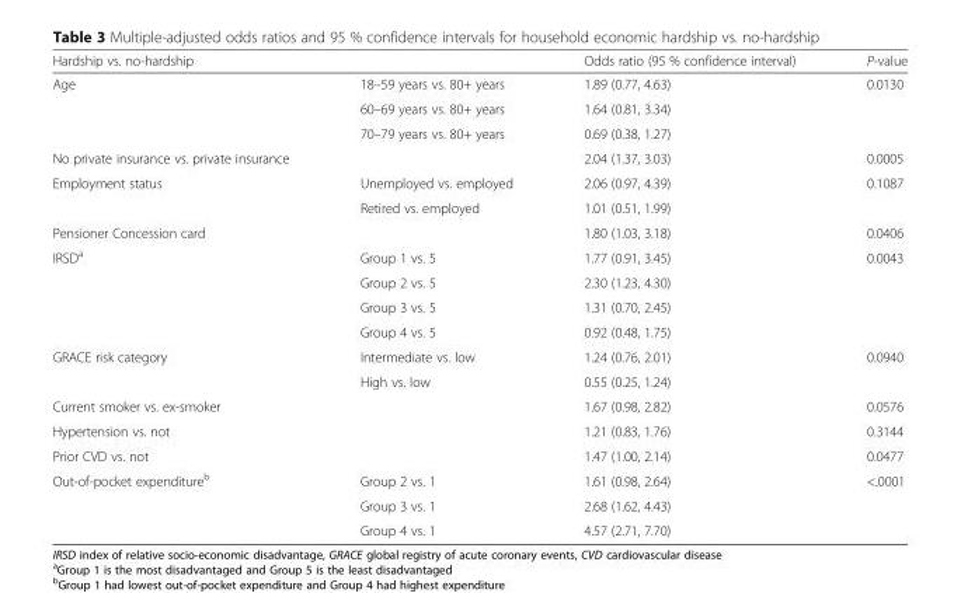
<table><thead><tr><td>Hardship vs. no-hardship</td><td></td><td>Odds ratio (95 % confidence interval)</td><td>P-value</td></tr></thead><tbody><tr><td rowspan="3">Age</td><td>18–59 years vs. 80+ years</td><td>1.89 (0.77, 4.63)</td><td>0.0130</td></tr><tr><td>60–69 years vs. 80+ years</td><td>1.64 (0.81, 3.34)</td><td></td></tr><tr><td>70–79 years vs. 80+ years</td><td>0.69 (0.38, 1.27)</td><td></td></tr><tr><td>No private insurance vs. private insurance</td><td></td><td>2.04 (1.37, 3.03)</td><td>0.0005</td></tr><tr><td rowspan="2">Employment status</td><td>Unemployed vs. employed</td><td>2.06 (0.97, 4.39)</td><td>0.1087</td></tr><tr><td>Retired vs. employed</td><td>1.01 (0.51, 1.99)</td><td></td></tr><tr><td>Pensioner Concession card</td><td></td><td>1.80 (1.03, 3.18)</td><td>0.0406</td></tr><tr><td rowspan="4">IRSD<sup>a</sup></td><td>Group 1 vs. 5</td><td>1.77 (0.91, 3.45)</td><td>0.0043</td></tr><tr><td>Group 2 vs. 5</td><td>2.30 (1.23, 4.30)</td><td></td></tr><tr><td>Group 3 vs. 5</td><td>1.31 (0.70, 2.45)</td><td></td></tr><tr><td>Group 4 vs. 5</td><td>0.92 (0.48, 1.75)</td><td></td></tr><tr><td rowspan="2">GRACE risk category</td><td>Intermediate vs. low</td><td>1.24 (0.76, 2.01)</td><td>0.0940</td></tr><tr><td>High vs. low</td><td>0.55 (0.25, 1.24)</td><td></td></tr><tr><td>Current smoker vs. ex-smoker</td><td></td><td>1.67 (0.98, 2.82)</td><td>0.0576</td></tr><tr><td>Hypertension vs. not</td><td></td><td>1.21 (0.83, 1.76)</td><td>0.3144</td></tr><tr><td>Prior CVD vs. not</td><td></td><td>1.47 (1.00, 2.14)</td><td>0.0477</td></tr><tr><td rowspan="3">Out-of-pocket expenditure<sup>b</sup></td><td>Group 2 vs. 1</td><td>1.61 (0.98, 2.64)</td><td>&lt;.0001</td></tr><tr><td>Group 3 vs. 1</td><td>2.68 (1.62, 4.43)</td><td></td></tr><tr><td>Group 4 vs. 1</td><td>4.57 (2.71, 7.70)</td><td></td></tr></tbody></table>